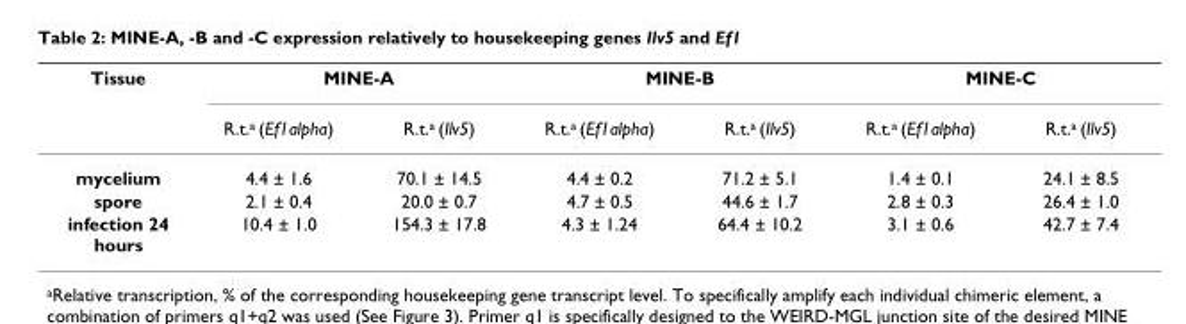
<table><thead><tr><td rowspan="2">Tissue</td><td colspan="2">MINE-A</td><td colspan="2">MINE-B</td><td colspan="2">MINE-C</td></tr><tr><td>R.t.<sup>a</sup> (Ef1alpha)</td><td>R.t.<sup>a</sup> (Ilv5)</td><td>R.t.<sup>a</sup> (Ef1alpha)</td><td>R.t.<sup>a</sup> (Ilv5)</td><td>R.t.<sup>a</sup> (Ef1alpha)</td><td>R.t.<sup>a</sup> (Ilv5)</td></tr></thead><tbody><tr><td>mycelium</td><td>4.4 ± 1.6</td><td>70.1 ± 14.5</td><td>4.4 ± 0.2</td><td>71.2 ± 5.1</td><td>1.4 ± 0.1</td><td>24.1 ± 8.5</td></tr><tr><td>spore</td><td>2.1 ± 0.4</td><td>20.0 ± 0.7</td><td>4.7 ± 0.5</td><td>44.6 ± 1.7</td><td>2.8 ± 0.3</td><td>26.4 ± 1.0</td></tr><tr><td>infection 24 hours</td><td>10.4 ± 1.0</td><td>154.3 ± 17.8</td><td>4.3 ± 1.24</td><td>64.4 ± 10.2</td><td>3.1 ± 0.6</td><td>42.7 ± 7.4</td></tr></tbody></table>